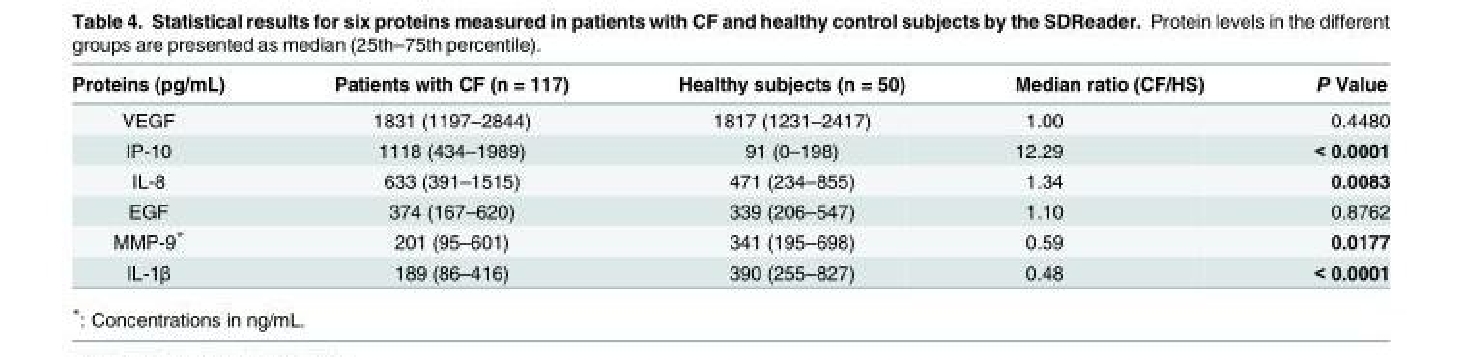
<table><thead><tr><td>Proteins (pg/mL)</td><td>Patients with CF (n = 117)</td><td>Healthy subjects (n = 50)</td><td>Median ratio (CF/HS)</td><td>P Value</td></tr></thead><tbody><tr><td>VEGF</td><td>1831 (1197–2844)</td><td>1817 (1231–2417)</td><td>1.00</td><td>0.4480</td></tr><tr><td>IP-10</td><td>1118 (434–1989)</td><td>91 (0–198)</td><td>12.29</td><td>&lt; 0.0001</td></tr><tr><td>IL-8</td><td>633 (391–1515)</td><td>471 (234–855)</td><td>1.34</td><td>0.0083</td></tr><tr><td>EGF</td><td>374 (167–620)</td><td>339 (206–547)</td><td>1.10</td><td>0.8762</td></tr><tr><td>MMP-9*</td><td>201 (95–601)</td><td>341 (195–698)</td><td>0.59</td><td>0.0177</td></tr><tr><td>IL-1β</td><td>189 (86–416)</td><td>390 (255–827)</td><td>0.48</td><td>&lt; 0.0001</td></tr></tbody></table>